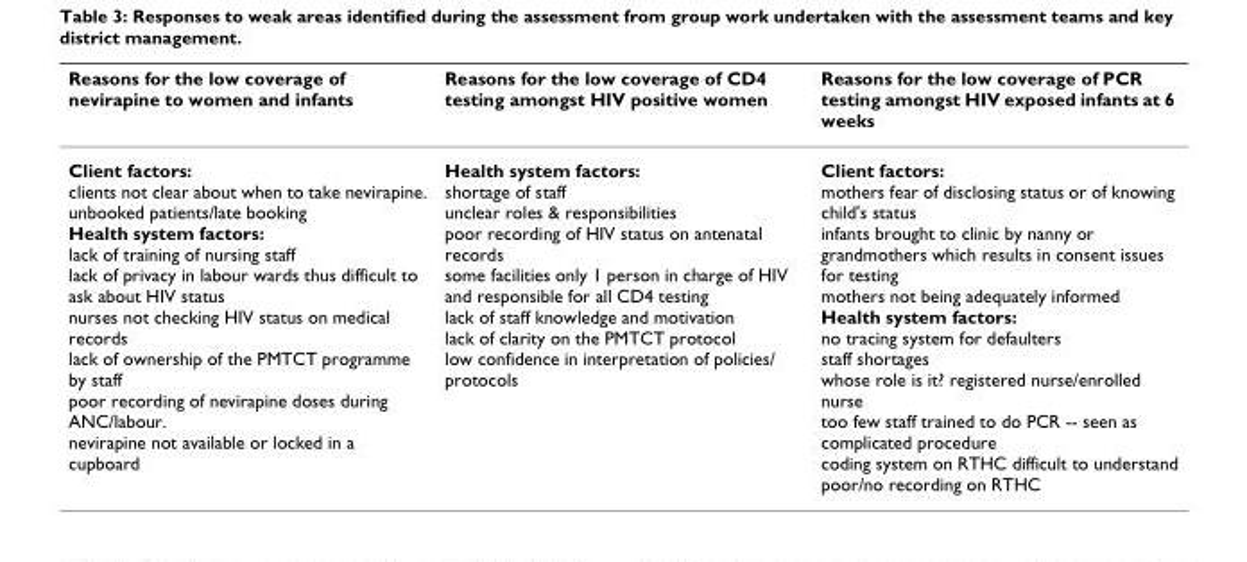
<table><thead><tr><td>Reasons for the low coverage of nevirapine to women and infants</td><td>Reasons for the low coverage of CD4 testing amongst HIV positive women</td><td>Reasons for the low coverage of PCR testing amongst HIV exposed infants at 6 weeks</td></tr></thead><tbody><tr><td>Client factors: clients not clear about when to take nevirapine. unbooked patients/late booking Health system factors: lack of training of nursing staff lack of privacy in labour wards thus difficult to ask about HIV status nurses not checking HIV status on medical records lack of ownership of the PMTCT programme by staff poor recording of nevirapine doses during ANC/labour. nevirapine not available or locked in a cupboard</td><td>Health system factors: shortage of staff unclear roles &amp; responsibilities poor recording of HIV status on antenatal records some facilities only 1 person in charge of HIV and responsible for all CD4 testing lack of staff knowledge and motivation lack of clarity on the PMTCT protocol low confidence in interpretation of policies/ protocols</td><td>Client factors: mothers fear of disclosing status or of knowing child&#x27;s status infants brought to clinic by nanny or grandmothers which results in consent issues for testing mothers not being adequately informed Health system factors: no tracing system for defaulters staff shortages whose role is it? registered nurse/enrolled nurse too few staff trained to do PCR -- seen as complicated procedure coding system on RTHC difficult to understand poor/no recording on RTHC</td></tr></tbody></table>